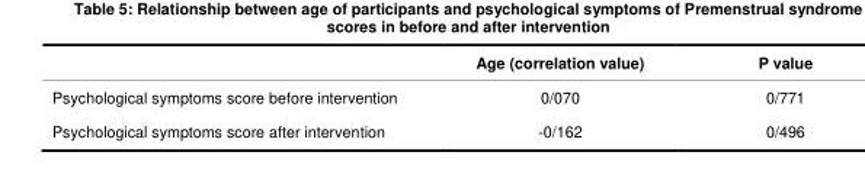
<table><thead><tr><td></td><td>Age (correlation value)</td><td>P value</td></tr></thead><tbody><tr><td>Psychological symptoms score before intervention</td><td>0/070</td><td>0/771</td></tr><tr><td>Psychological symptoms score after intervention</td><td>-0/162</td><td>0/496</td></tr></tbody></table>